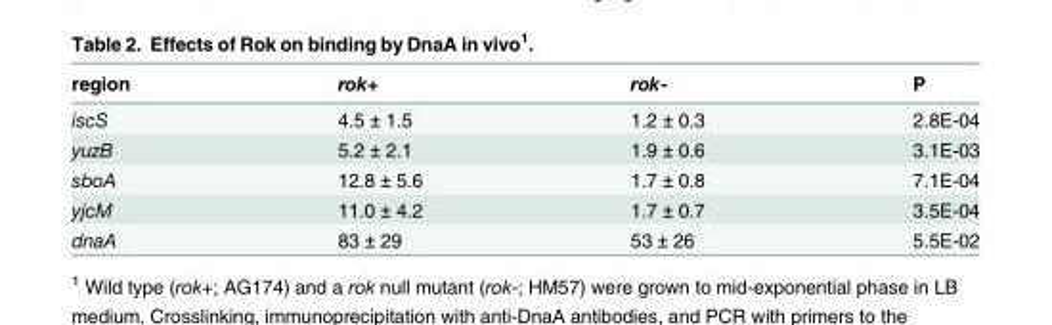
<table><thead><tr><td>region</td><td>rok+</td><td>rok-</td><td>P</td></tr></thead><tbody><tr><td>iscS</td><td>4.5 ± 1.5</td><td>1.2 ± 0.3</td><td>2.8E-04</td></tr><tr><td>yuzB</td><td>5.2 ± 2.1</td><td>1.9 ± 0.6</td><td>3.1E-03</td></tr><tr><td>sboA</td><td>12.8 ± 5.6</td><td>1.7 ± 0.8</td><td>7.1E-04</td></tr><tr><td>yjcM</td><td>11.0 ± 4.2</td><td>1.7 ± 0.7</td><td>3.5E-04</td></tr><tr><td>dnaA</td><td>83 ± 29</td><td>53 ± 26</td><td>5.5E-02</td></tr></tbody></table>